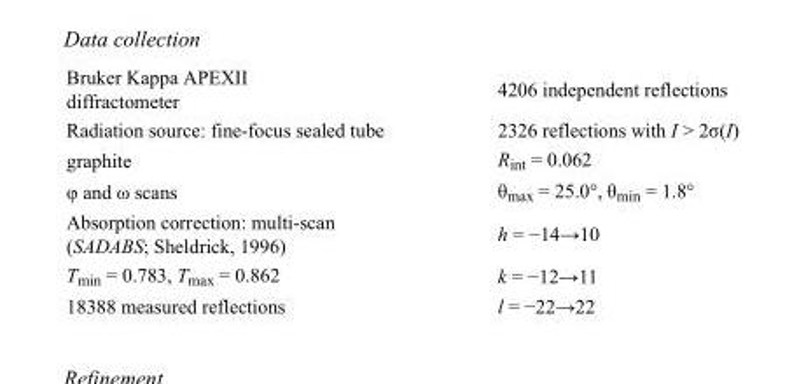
<table><tbody><tr><td>Bruker Kappa APEXII diffractometer</td><td>4206 independent reflections</td></tr><tr><td>Radiation source: fine-focus sealed tube</td><td>2326 reflections with I &gt; 2σ(I)</td></tr><tr><td>graphite</td><td>R<sub>int</sub> = 0.062</td></tr><tr><td>φ and ω scans</td><td>θ<sub>max</sub> = 25.0°, θ<sub>min</sub> = 1.8°</td></tr><tr><td>Absorption correction: multi-scan (SADABS; Sheldrick, 1996)</td><td>h = −14→10</td></tr><tr><td>T<sub>min</sub> = 0.783, T<sub>max</sub> = 0.862</td><td>k = −12→11</td></tr><tr><td>18388 measured reflections</td><td>l = −22→22</td></tr></tbody></table>